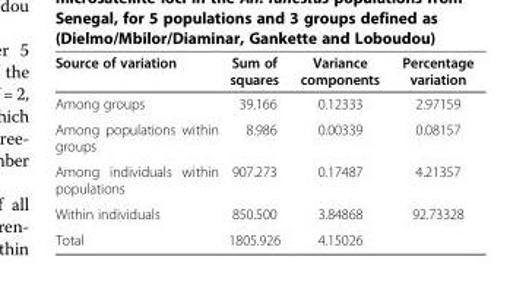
<table><thead><tr><td>Source of variation</td><td>Sum of squares</td><td>Variance components</td><td>Percentage variation</td></tr></thead><tbody><tr><td>Among groups</td><td>39.166</td><td>0.12333</td><td>2.97159</td></tr><tr><td>Among populations within groups</td><td>8.986</td><td>0.00339</td><td>0.08157</td></tr><tr><td>Among individuals within populations</td><td>907.273</td><td>0.17487</td><td>4.21357</td></tr><tr><td>Within individuals</td><td>850.500</td><td>3.84868</td><td>92.73328</td></tr><tr><td>Total</td><td>1805.926</td><td>4.15026</td><td></td></tr></tbody></table>